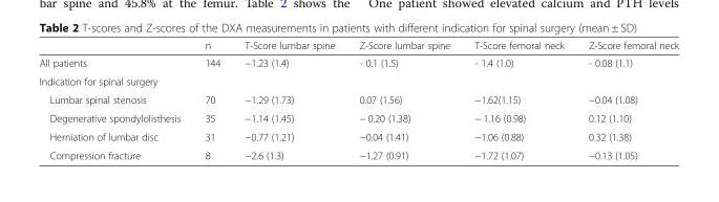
<table><thead><tr><td></td><td>n</td><td>T-Score lumbar spine</td><td>Z-Score lumbar spine</td><td>T-Score femoral neck</td><td>Z-Score femoral neck</td></tr></thead><tbody><tr><td>All patients</td><td>144</td><td>−1.23 (1.4)</td><td>- 0.1 (1.5)</td><td>- 1.4 (1.0)</td><td>- 0.08 (1.1)</td></tr><tr><td colspan="6">Indication for spinal surgery</td></tr><tr><td>Lumbar spinal stenosis</td><td>70</td><td>−1.29 (1.73)</td><td>0.07 (1.56)</td><td>−1.62(1.15)</td><td>−0.04 (1.08)</td></tr><tr><td>Degenerative spondylolisthesis</td><td>35</td><td>−1.14 (1.45)</td><td>− 0.20 (1.38)</td><td>− 1.16 (0.98)</td><td>0.12 (1.10)</td></tr><tr><td>Herniation of lumbar disc</td><td>31</td><td>−0.77 (1.21)</td><td>−0.04 (1.41)</td><td>−1.06 (0.88)</td><td>0.32 (1.38)</td></tr><tr><td>Compression fracture</td><td>8</td><td>−2.6 (1.3)</td><td>−1.27 (0.91)</td><td>−1.72 (1.07)</td><td>−0.13 (1.05)</td></tr></tbody></table>